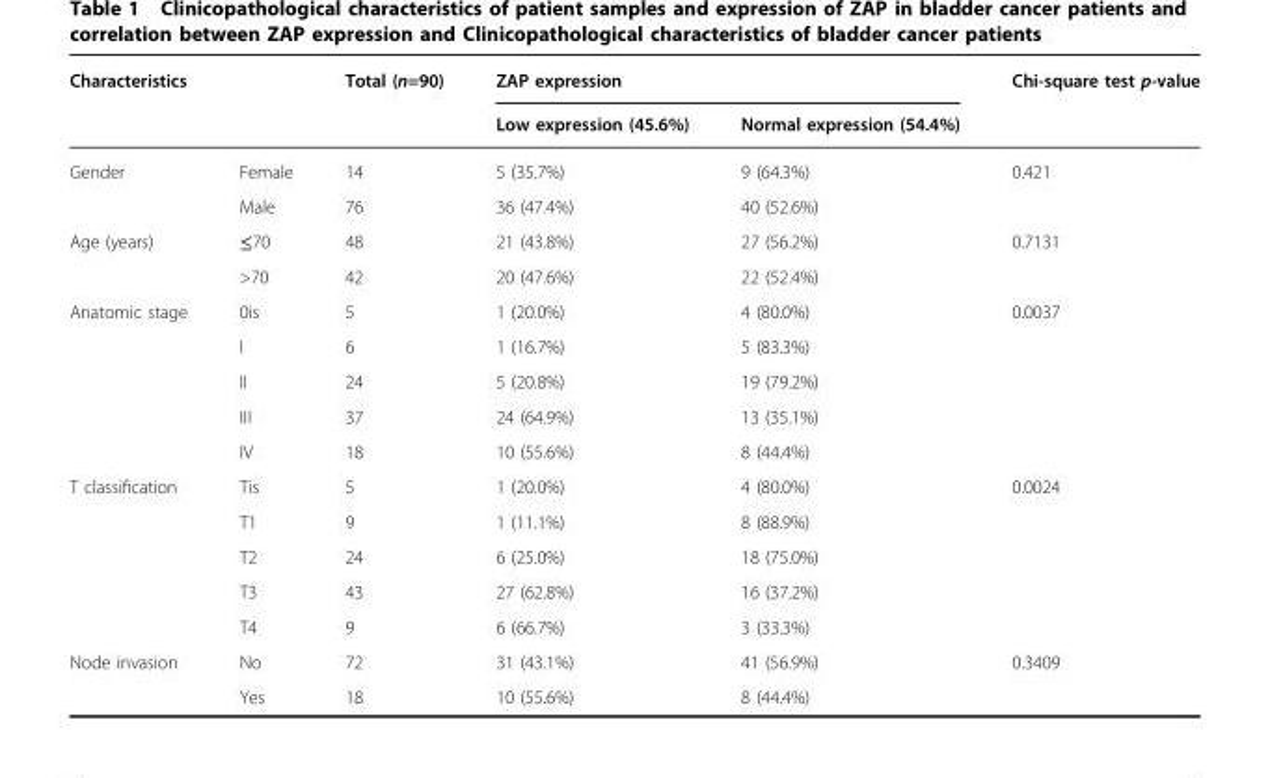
<table><thead><tr><td rowspan="2">Characteristics</td><td rowspan="2"></td><td rowspan="2">Total (n=90)</td><td colspan="2">ZAP expression</td><td rowspan="2">Chi-square test p-value</td></tr><tr><td>Low expression (45.6%)</td><td>Normal expression (54.4%)</td></tr></thead><tbody><tr><td rowspan="2">Gender</td><td>Female</td><td>14</td><td>5 (35.7%)</td><td>9 (64.3%)</td><td>0.421</td></tr><tr><td>Male</td><td>76</td><td>36 (47.4%)</td><td>40 (52.6%)</td><td></td></tr><tr><td rowspan="2">Age (years)</td><td>≤70</td><td>48</td><td>21 (43.8%)</td><td>27 (56.2%)</td><td>0.7131</td></tr><tr><td>&gt;70</td><td>42</td><td>20 (47.6%)</td><td>22 (52.4%)</td><td></td></tr><tr><td rowspan="5">Anatomic stage</td><td>0is</td><td>5</td><td>1 (20.0%)</td><td>4 (80.0%)</td><td>0.0037</td></tr><tr><td>I</td><td>6</td><td>1 (16.7%)</td><td>5 (83.3%)</td><td></td></tr><tr><td>II</td><td>24</td><td>5 (20.8%)</td><td>19 (79.2%)</td><td></td></tr><tr><td>III</td><td>37</td><td>24 (64.9%)</td><td>13 (35.1%)</td><td></td></tr><tr><td>IV</td><td>18</td><td>10 (55.6%)</td><td>8 (44.4%)</td><td></td></tr><tr><td rowspan="5">T classification</td><td>Tis</td><td>5</td><td>1 (20.0%)</td><td>4 (80.0%)</td><td>0.0024</td></tr><tr><td>T1</td><td>9</td><td>1 (11.1%)</td><td>8 (88.9%)</td><td></td></tr><tr><td>T2</td><td>24</td><td>6 (25.0%)</td><td>18 (75.0%)</td><td></td></tr><tr><td>T3</td><td>43</td><td>27 (62.8%)</td><td>16 (37.2%)</td><td></td></tr><tr><td>T4</td><td>9</td><td>6 (66.7%)</td><td>3 (33.3%)</td><td></td></tr><tr><td rowspan="2">Node invasion</td><td>No</td><td>72</td><td>31 (43.1%)</td><td>41 (56.9%)</td><td>0.3409</td></tr><tr><td>Yes</td><td>18</td><td>10 (55.6%)</td><td>8 (44.4%)</td><td></td></tr></tbody></table>